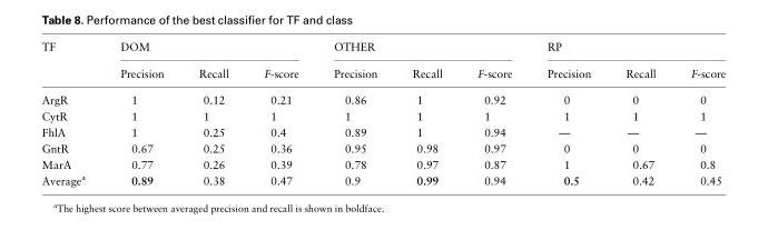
<table><thead><tr><td rowspan="2">TF</td><td colspan="3">DOM</td><td colspan="3">OTHER</td><td colspan="3">RP</td></tr><tr><td>Precision</td><td>Recall</td><td>F-score</td><td>Precision</td><td>Recall</td><td>F-score</td><td>Precision</td><td>Recall</td><td>F-score</td></tr></thead><tbody><tr><td>ArgR</td><td>1</td><td>0.12</td><td>0.21</td><td>0.86</td><td>1</td><td>0.92</td><td>0</td><td>0</td><td>0</td></tr><tr><td>CytR</td><td>1</td><td>1</td><td>1</td><td>1</td><td>1</td><td>1</td><td>1</td><td>1</td><td>1</td></tr><tr><td>FhlA</td><td>1</td><td>0.25</td><td>0.4</td><td>0.89</td><td>1</td><td>0.94</td><td>—</td><td>—</td><td>—</td></tr><tr><td>GntR</td><td>0.67</td><td>0.25</td><td>0.36</td><td>0.95</td><td>0.98</td><td>0.97</td><td>0</td><td>0</td><td>0</td></tr><tr><td>MarA</td><td>0.77</td><td>0.26</td><td>0.39</td><td>0.78</td><td>0.97</td><td>0.87</td><td>1</td><td>0.67</td><td>0.8</td></tr><tr><td>Average<sup>a</sup></td><td>0.89</td><td>0.38</td><td>0.47</td><td>0.9</td><td>0.99</td><td>0.94</td><td>0.5</td><td>0.42</td><td>0.45</td></tr></tbody></table>